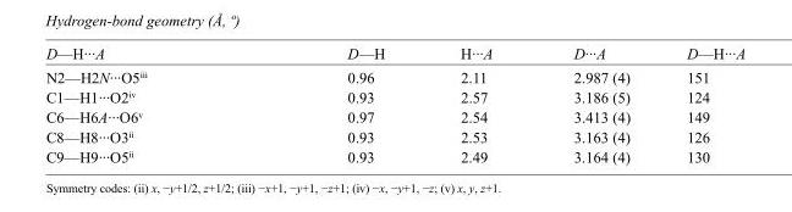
<table><tbody><tr><td>D—H···A</td><td>D—H</td><td>H···A</td><td>D···A</td><td>D—H···A</td></tr><tr><td>N2—H2N···O5<sup>iii</sup></td><td>0.96</td><td>2.11</td><td>2.987 (4)</td><td>151</td></tr><tr><td>C1—H1···O2<sup>iv</sup></td><td>0.93</td><td>2.57</td><td>3.186 (5)</td><td>124</td></tr><tr><td>C6—H6A···O6<sup>v</sup></td><td>0.97</td><td>2.54</td><td>3.413 (4)</td><td>149</td></tr><tr><td>C8—H8···O3<sup>ii</sup></td><td>0.93</td><td>2.53</td><td>3.163 (4)</td><td>126</td></tr><tr><td>C9—H9···O5<sup>ii</sup></td><td>0.93</td><td>2.49</td><td>3.164 (4)</td><td>130</td></tr></tbody></table>